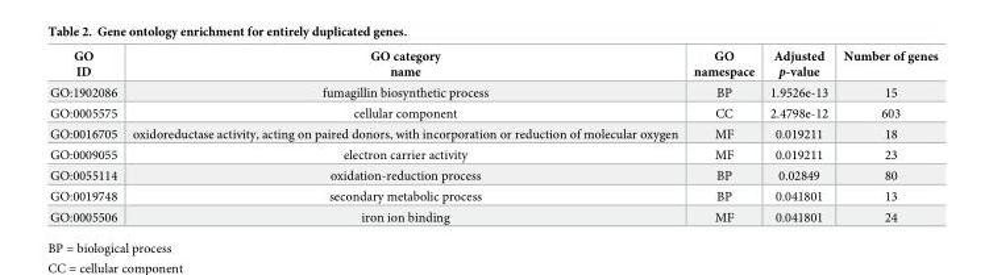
<table><thead><tr><td>GO ID</td><td>GO category name</td><td>GO namespace</td><td>Adjusted p-value</td><td>Number of genes</td></tr></thead><tbody><tr><td>GO:1902086</td><td>fumagillin biosynthetic process</td><td>BP</td><td>1.9526e-13</td><td>15</td></tr><tr><td>GO:0005575</td><td>cellular component</td><td>CC</td><td>2.4798e-12</td><td>603</td></tr><tr><td>GO:0016705</td><td>oxidoreductase activity, acting on paired donors, with incorporation or reduction of molecular oxygen</td><td>MF</td><td>0.019211</td><td>18</td></tr><tr><td>GO:0009055</td><td>electron carrier activity</td><td>MF</td><td>0.019211</td><td>23</td></tr><tr><td>GO:0055114</td><td>oxidation-reduction process</td><td>BP</td><td>0.02849</td><td>80</td></tr><tr><td>GO:0019748</td><td>secondary metabolic process</td><td>BP</td><td>0.041801</td><td>13</td></tr><tr><td>GO:0005506</td><td>iron ion binding</td><td>MF</td><td>0.041801</td><td>24</td></tr></tbody></table>